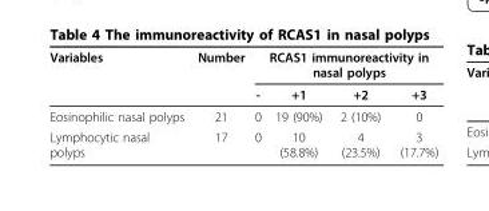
<table><thead><tr><td rowspan="2">Variables</td><td rowspan="2">Number</td><td colspan="4">RCAS1 immunoreactivity in nasal polyps</td></tr><tr><td>-</td><td>+1</td><td>+2</td><td>+3</td></tr></thead><tbody><tr><td>Eosinophilic nasal polyps</td><td>21</td><td>0</td><td>19 (90%)</td><td>2 (10%)</td><td>0</td></tr><tr><td>Lymphocytic nasal polyps</td><td>17</td><td>0</td><td>10 (58.8%)</td><td>4 (23.5%)</td><td>3 (17.7%)</td></tr></tbody></table>